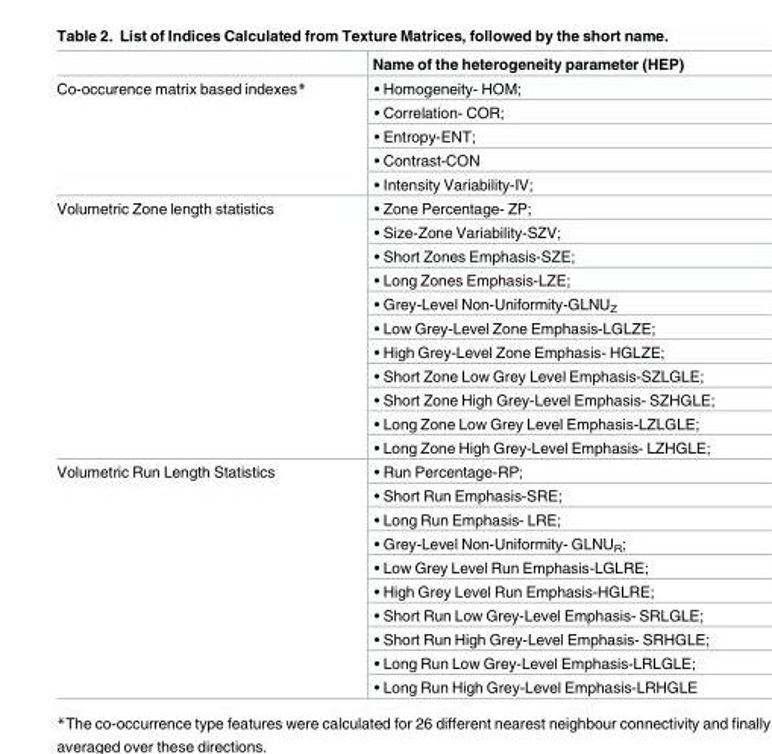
<table><thead><tr><td></td><td>Name of the heterogeneity parameter (HEP)</td></tr></thead><tbody><tr><td rowspan="5">Co-occurence matrix based indexes*</td><td>• Homogeneity- HOM;</td></tr><tr><td>• Correlation- COR;</td></tr><tr><td>• Entropy-ENT;</td></tr><tr><td>• Contrast-CON</td></tr><tr><td>• Intensity Variability-IV;</td></tr><tr><td rowspan="11">Volumetric Zone length statistics</td><td>• Zone Percentage- ZP;</td></tr><tr><td>• Size-Zone Variability-SZV;</td></tr><tr><td>• Short Zones Emphasis-SZE;</td></tr><tr><td>• Long Zones Emphasis-LZE;</td></tr><tr><td>• Grey-Level Non-Uniformity-GLNU<sub>Z</sub></td></tr><tr><td>• Low Grey-Level Zone Emphasis-LGLZE;</td></tr><tr><td>• High Grey-Level Zone Emphasis- HGLZE;</td></tr><tr><td>• Short Zone Low Grey Level Emphasis-SZLGLE;</td></tr><tr><td>• Short Zone High Grey-Level Emphasis- SZHGLE;</td></tr><tr><td>• Long Zone Low Grey Level Emphasis-LZLGLE;</td></tr><tr><td>• Long Zone High Grey-Level Emphasis- LZHGLE;</td></tr><tr><td rowspan="10">Volumetric Run Length Statistics</td><td>• Run Percentage-RP;</td></tr><tr><td>• Short Run Emphasis-SRE;</td></tr><tr><td>• Long Run Emphasis- LRE;</td></tr><tr><td>• Grey-Level Non-Uniformity- GLNU<sub>R</sub>;</td></tr><tr><td>• Low Grey Level Run Emphasis-LGLRE;</td></tr><tr><td>• High Grey Level Run Emphasis-HGLRE;</td></tr><tr><td>• Short Run Low Grey-Level Emphasis- SRLGLE;</td></tr><tr><td>• Short Run High Grey-Level Emphasis- SRHGLE;</td></tr><tr><td>• Long Run Low Grey-Level Emphasis-LRLGLE;</td></tr><tr><td>• Long Run High Grey-Level Emphasis-LRHGLE</td></tr></tbody></table>